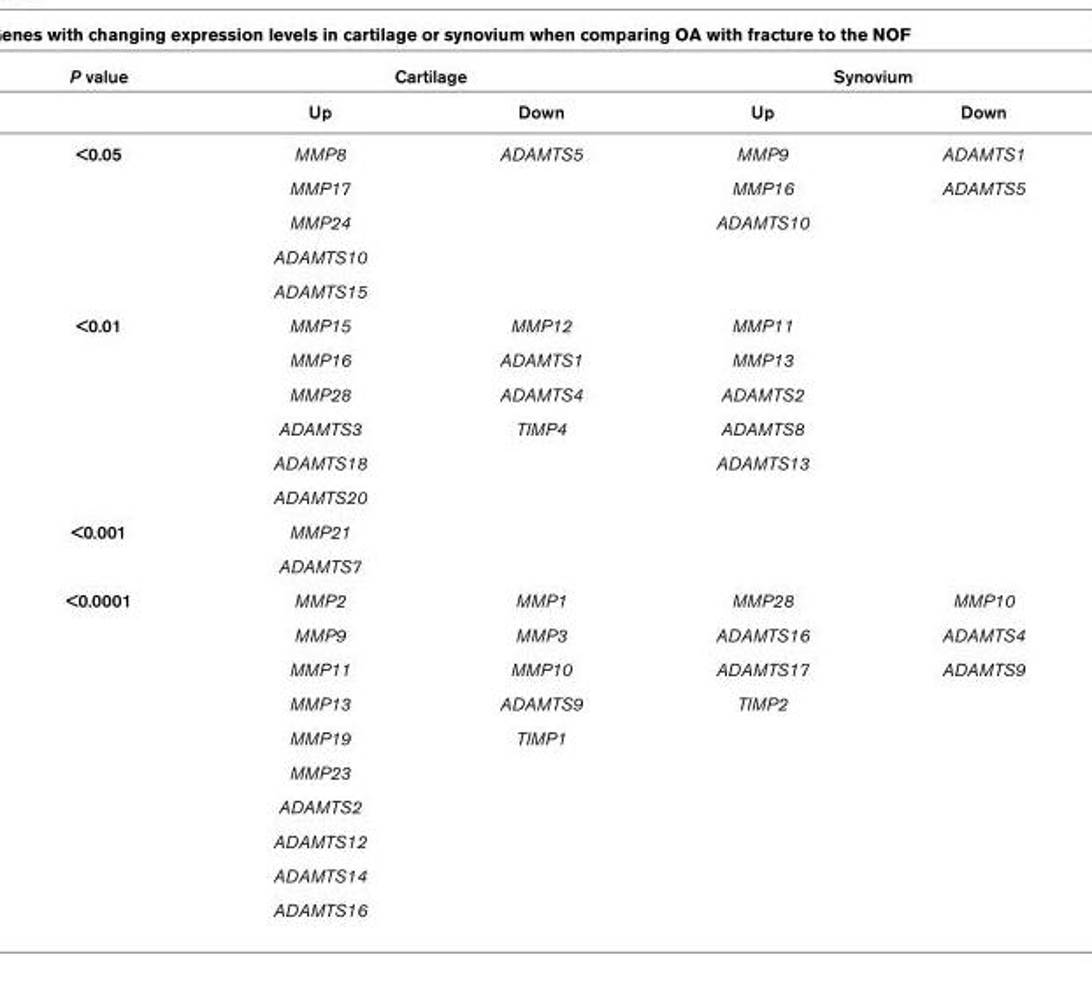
<table><thead><tr><td rowspan="2">P value</td><td colspan="2">Cartilage</td><td colspan="2">Synovium</td></tr><tr><td>Up</td><td>Down</td><td>Up</td><td>Down</td></tr></thead><tbody><tr><td rowspan="5">&lt;0.05</td><td>MMP8</td><td>ADAMTS5</td><td>MMP9</td><td>ADAMTS1</td></tr><tr><td>MMP17</td><td></td><td>MMP16</td><td>ADAMTS5</td></tr><tr><td>MMP24</td><td></td><td>ADAMTS10</td><td></td></tr><tr><td>ADAMTS10</td><td></td><td></td><td></td></tr><tr><td>ADAMTS15</td><td></td><td></td><td></td></tr><tr><td rowspan="6">&lt;0.01</td><td>MMP15</td><td>MMP12</td><td>MMP11</td><td></td></tr><tr><td>MMP16</td><td>ADAMTS1</td><td>MMP13</td><td></td></tr><tr><td>MMP28</td><td>ADAMTS4</td><td>ADAMTS2</td><td></td></tr><tr><td>ADAMTS3</td><td>TIMP4</td><td>ADAMTS8</td><td></td></tr><tr><td>ADAMTS18</td><td></td><td>ADAMTS13</td><td></td></tr><tr><td>ADAMTS20</td><td></td><td></td><td></td></tr><tr><td rowspan="2">&lt;0.001</td><td>MMP21</td><td></td><td></td><td></td></tr><tr><td>ADAMTS7</td><td></td><td></td><td></td></tr><tr><td rowspan="10">&lt;0.0001</td><td>MMP2</td><td>MMP1</td><td>MMP28</td><td>MMP10</td></tr><tr><td>MMP9</td><td>MMP3</td><td>ADAMTS16</td><td>ADAMTS4</td></tr><tr><td>MMP11</td><td>MMP10</td><td>ADAMTS17</td><td>ADAMTS9</td></tr><tr><td>MMP13</td><td>ADAMTS9</td><td>TIMP2</td><td></td></tr><tr><td>MMP19</td><td>TIMP1</td><td></td><td></td></tr><tr><td>MMP23</td><td></td><td></td><td></td></tr><tr><td>ADAMTS2</td><td></td><td></td><td></td></tr><tr><td>ADAMTS12</td><td></td><td></td><td></td></tr><tr><td>ADAMTS14</td><td></td><td></td><td></td></tr><tr><td>ADAMTS16</td><td></td><td></td><td></td></tr></tbody></table>